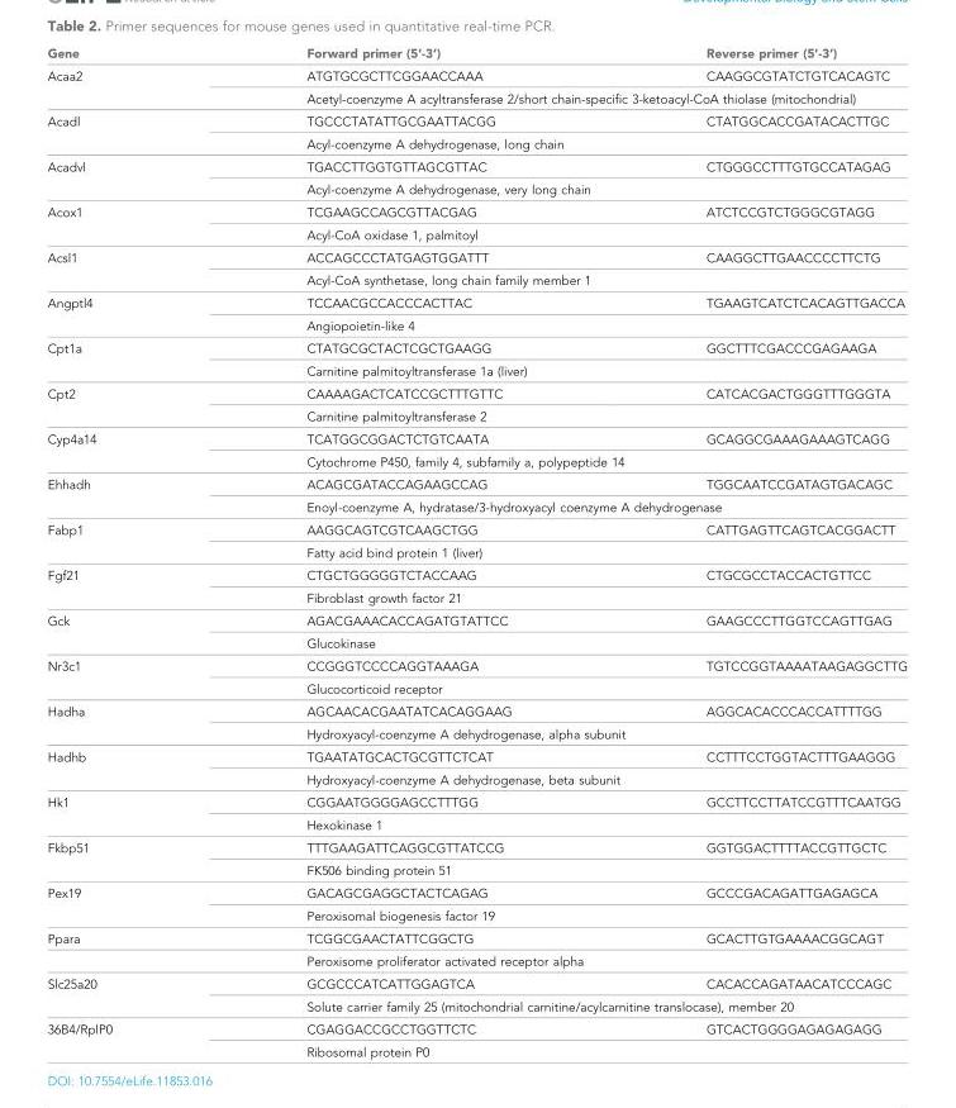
<table><thead><tr><td>Gene</td><td>Forward primer (5’-3’)</td><td>Reverse primer (5’-3’)</td></tr></thead><tbody><tr><td rowspan="2">Acaa2</td><td>ATGTGCGCTTCGGAACCAAA</td><td>CAAGGCGTATCTGTCACAGTC</td></tr><tr><td colspan="2">Acetyl-coenzyme A acyltransferase 2/short chain-specific 3-ketoacyl-CoA thiolase (mitochondrial)</td></tr><tr><td rowspan="2">Acadl</td><td>TGCCCTATATTGCGAATTACGG</td><td>CTATGGCACCGATACACTTGC</td></tr><tr><td colspan="2">Acyl-coenzyme A dehydrogenase, long chain</td></tr><tr><td rowspan="2">Acadvl</td><td>TGACCTTGGTGTTAGCGTTAC</td><td>CTGGGCCTTTGTGCCATAGAG</td></tr><tr><td colspan="2">Acyl-coenzyme A dehydrogenase, very long chain</td></tr><tr><td rowspan="2">Acox1</td><td>TCGAAGCCAGCGTTACGAG</td><td>ATCTCCGTCTGGGCGTAGG</td></tr><tr><td colspan="2">Acyl-CoA oxidase 1, palmitoyl</td></tr><tr><td rowspan="2">Acsl1</td><td>ACCAGCCCTATGAGTGGATTT</td><td>CAAGGCTTGAACCCCTTCTG</td></tr><tr><td colspan="2">Acyl-CoA synthetase, long chain family member 1</td></tr><tr><td rowspan="2">Angptl4</td><td>TCCAACGCCACCCACTTAC</td><td>TGAAGTCATCTCACAGTTGACCA</td></tr><tr><td colspan="2">Angiopoietin-like 4</td></tr><tr><td rowspan="2">Cpt1a</td><td>CTATGCGCTACTCGCTGAAGG</td><td>GGCTTTCGACCCGAGAAGA</td></tr><tr><td colspan="2">Carnitine palmitoyltransferase 1a (liver)</td></tr><tr><td rowspan="2">Cpt2</td><td>CAAAAGACTCATCCGCTTTGTTC</td><td>CATCACGACTGGGTTTGGGTA</td></tr><tr><td colspan="2">Carnitine palmitoyltransferase 2</td></tr><tr><td rowspan="2">Cyp4a14</td><td>TCATGGCGGACTCTGTCAATA</td><td>GCAGGCGAAAGAAAGTCAGG</td></tr><tr><td colspan="2">Cytochrome P450, family 4, subfamily a, polypeptide 14</td></tr><tr><td rowspan="2">Ehhadh</td><td>ACAGCGATACCAGAAGCCAG</td><td>TGGCAATCCGATAGTGACAGC</td></tr><tr><td colspan="2">Enoyl-coenzyme A, hydratase/3-hydroxyacyl coenzyme A dehydrogenase</td></tr><tr><td rowspan="2">Fabp1</td><td>AAGGCAGTCGTCAAGCTGG</td><td>CATTGAGTTCAGTCACGGACTT</td></tr><tr><td colspan="2">Fatty acid bind protein 1 (liver)</td></tr><tr><td rowspan="2">Fgf21</td><td>CTGCTGGGGGTCTACCAAG</td><td>CTGCGCCTACCACTGTTCC</td></tr><tr><td colspan="2">Fibroblast growth factor 21</td></tr><tr><td rowspan="2">Gck</td><td>AGACGAAACACCAGATGTATTCC</td><td>GAAGCCCTTGGTCCAGTTGAG</td></tr><tr><td colspan="2">Glucokinase</td></tr><tr><td rowspan="2">Nr3c1</td><td>CCGGGTCCCCAGGTAAAGA</td><td>TGTCCGGTAAAATAAGAGGCTTG</td></tr><tr><td colspan="2">Glucocorticoid receptor</td></tr><tr><td rowspan="2">Hadha</td><td>AGCAACACGAATATCACAGGAAG</td><td>AGGCACACCCACCATTTTGG</td></tr><tr><td colspan="2">Hydroxyacyl-coenzyme A dehydrogenase, alpha subunit</td></tr><tr><td rowspan="2">Hadhb</td><td>TGAATATGCACTGCGTTCTCAT</td><td>CCTTTCCTGGTACTTTGAAGGG</td></tr><tr><td colspan="2">Hydroxyacyl-coenzyme A dehydrogenase, beta subunit</td></tr><tr><td rowspan="2">Hk1</td><td>CGGAATGGGGAGCCTTTGG</td><td>GCCTTCCTTATCCGTTTCAATGG</td></tr><tr><td colspan="2">Hexokinase 1</td></tr><tr><td rowspan="2">Fkbp51</td><td>TTTGAAGATTCAGGCGTTATCCG</td><td>GGTGGACTTTTACCGTTGCTC</td></tr><tr><td colspan="2">FK506 binding protein 51</td></tr><tr><td rowspan="2">Pex19</td><td>GACAGCGAGGCTACTCAGAG</td><td>GCCCGACAGATTGAGAGCA</td></tr><tr><td colspan="2">Peroxisomal biogenesis factor 19</td></tr><tr><td rowspan="2">Ppara</td><td>TCGGCGAACTATTCGGCTG</td><td>GCACTTGTGAAAACGGCAGT</td></tr><tr><td colspan="2">Peroxisome proliferator activated receptor alpha</td></tr><tr><td rowspan="2">Slc25a20</td><td>GCGCCCATCATTGGAGTCA</td><td>CACACCAGATAACATCCCAGC</td></tr><tr><td colspan="2">Solute carrier family 25 (mitochondrial carnitine/acylcarnitine translocase), member 20</td></tr><tr><td rowspan="2">36B4/RplP0</td><td>CGAGGACCGCCTGGTTCTC</td><td>GTCACTGGGGAGAGAGAGG</td></tr><tr><td colspan="2">Ribosomal protein P0</td></tr></tbody></table>